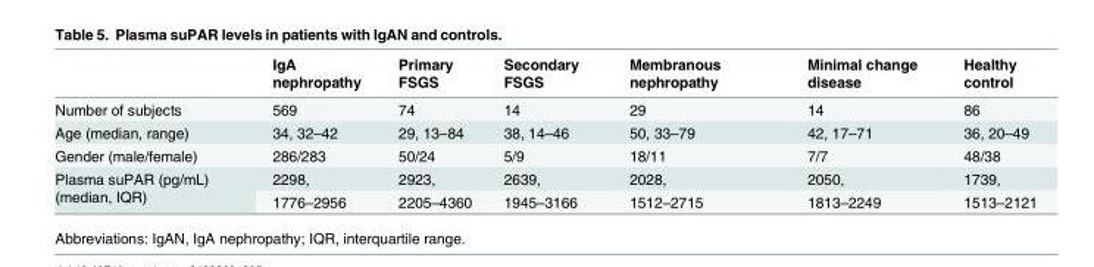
<table><thead><tr><td></td><td>IgA nephropathy</td><td>Primary FSGS</td><td>Secondary FSGS</td><td>Membranous nephropathy</td><td>Minimal change disease</td><td>Healthy control</td></tr></thead><tbody><tr><td>Number of subjects</td><td>569</td><td>74</td><td>14</td><td>29</td><td>14</td><td>86</td></tr><tr><td>Age (median, range)</td><td>34, 32–42</td><td>29, 13–84</td><td>38, 14–46</td><td>50, 33–79</td><td>42, 17–71</td><td>36, 20–49</td></tr><tr><td>Gender (male/female)</td><td>286/283</td><td>50/24</td><td>5/9</td><td>18/11</td><td>7/7</td><td>48/38</td></tr><tr><td rowspan="2">Plasma suPAR (pg/mL) (median, IQR)</td><td>2298,</td><td>2923,</td><td>2639,</td><td>2028,</td><td>2050,</td><td>1739,</td></tr><tr><td>1776–2956</td><td>2205–4360</td><td>1945–3166</td><td>1512–2715</td><td>1813–2249</td><td>1513–2121</td></tr></tbody></table>